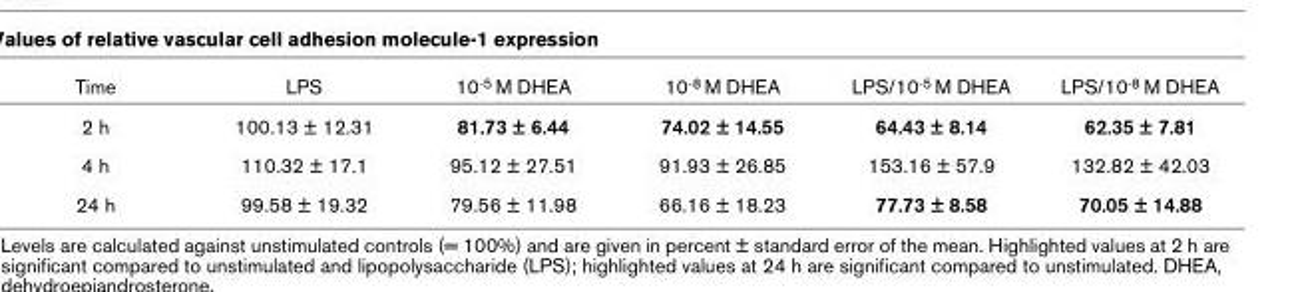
<table><thead><tr><td>Time</td><td>LPS</td><td>10-5 M DHEA</td><td>10-8 M DHEA</td><td>LPS/10-5 M DHEA</td><td>LPS/10-8 M DHEA</td></tr></thead><tbody><tr><td>2 h</td><td>100.13 ± 12.31</td><td>81.73 ± 6.44</td><td>74.02 ± 14.55</td><td>64.43 ± 8.14</td><td>62.35 ± 7.81</td></tr><tr><td>4 h</td><td>110.32 ± 17.1</td><td>95.12 ± 27.51</td><td>91.93 ± 26.85</td><td>153.16 ± 57.9</td><td>132.82 ± 42.03</td></tr><tr><td>24 h</td><td>99.58 ± 19.32</td><td>79.56 ± 11.98</td><td>66.16 ± 18.23</td><td>77.73 ± 8.58</td><td>70.05 ± 14.88</td></tr></tbody></table>